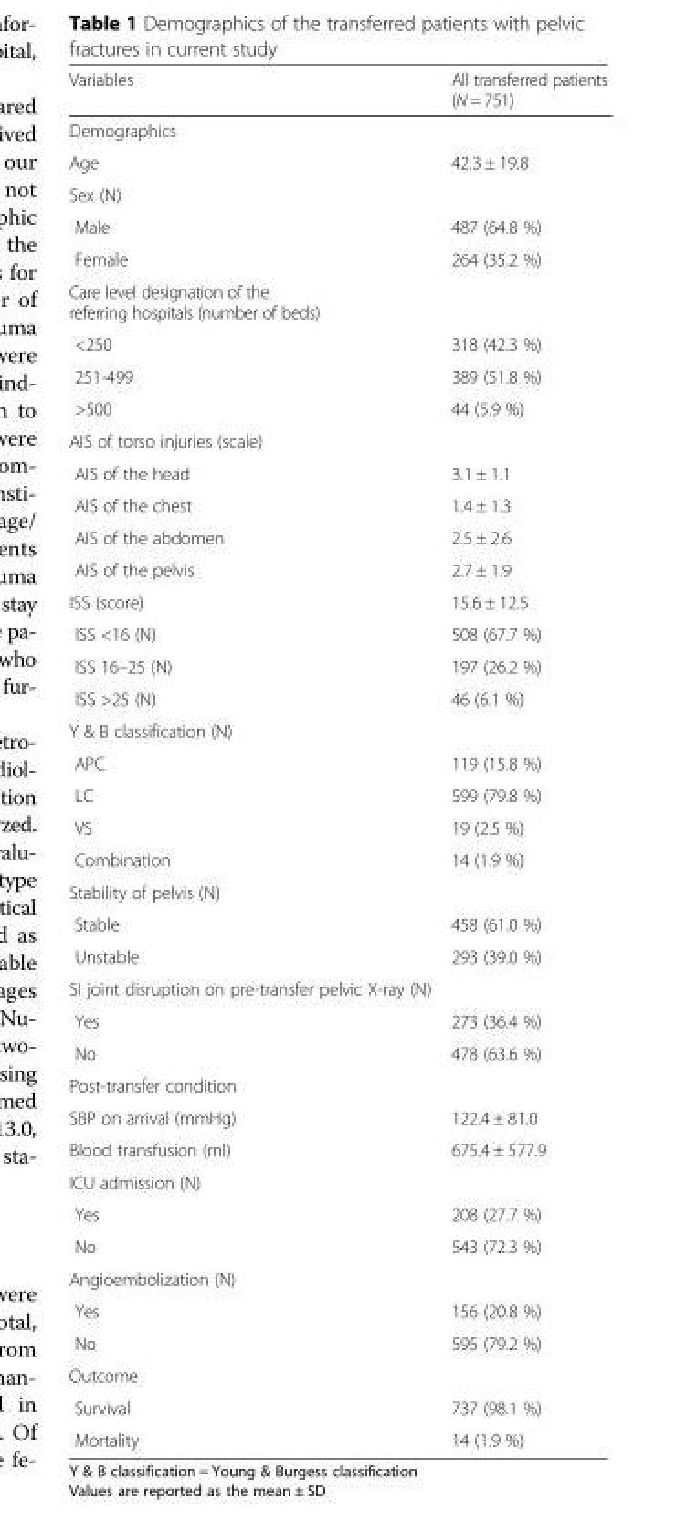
<table><thead><tr><td>Variables</td><td>All transferred patients (N = 751)</td></tr></thead><tbody><tr><td colspan="2">Demographics</td></tr><tr><td>Age</td><td>42.3 ± 19.8</td></tr><tr><td colspan="2">Sex (N)</td></tr><tr><td>Male</td><td>487 (64.8 %)</td></tr><tr><td>Female</td><td>264 (35.2 %)</td></tr><tr><td colspan="2">Care level designation of the referring hospitals (number of beds)</td></tr><tr><td>&lt;250</td><td>318 (42.3 %)</td></tr><tr><td>251-499</td><td>389 (51.8 %)</td></tr><tr><td>&gt;500</td><td>44 (5.9 %)</td></tr><tr><td colspan="2">AIS of torso injuries (scale)</td></tr><tr><td>AIS of the head</td><td>3.1 ± 1.1</td></tr><tr><td>AIS of the chest</td><td>1.4 ± 1.3</td></tr><tr><td>AIS of the abdomen</td><td>2.5 ± 2.6</td></tr><tr><td>AIS of the pelvis</td><td>2.7 ± 1.9</td></tr><tr><td>ISS (score)</td><td>15.6 ± 12.5</td></tr><tr><td>ISS &lt;16 (N)</td><td>508 (67.7 %)</td></tr><tr><td>ISS 16–25 (N)</td><td>197 (26.2 %)</td></tr><tr><td>ISS &gt;25 (N)</td><td>46 (6.1 %)</td></tr><tr><td colspan="2">Y &amp; B classification (N)</td></tr><tr><td>APC</td><td>119 (15.8 %)</td></tr><tr><td>LC</td><td>599 (79.8 %)</td></tr><tr><td>VS</td><td>19 (2.5 %)</td></tr><tr><td>Combination</td><td>14 (1.9 %)</td></tr><tr><td colspan="2">Stability of pelvis (N)</td></tr><tr><td>Stable</td><td>458 (61.0 %)</td></tr><tr><td>Unstable</td><td>293 (39.0 %)</td></tr><tr><td colspan="2">SI joint disruption on pre-transfer pelvic X-ray (N)</td></tr><tr><td>Yes</td><td>273 (36.4 %)</td></tr><tr><td>No</td><td>478 (63.6 %)</td></tr><tr><td colspan="2">Post-transfer condition</td></tr><tr><td>SBP on arrival (mmHg)</td><td>122.4 ± 81.0</td></tr><tr><td>Blood transfusion (ml)</td><td>675.4 ± 577.9</td></tr><tr><td colspan="2">ICU admission (N)</td></tr><tr><td>Yes</td><td>208 (27.7 %)</td></tr><tr><td>No</td><td>543 (72.3 %)</td></tr><tr><td colspan="2">Angioembolization (N)</td></tr><tr><td>Yes</td><td>156 (20.8 %)</td></tr><tr><td>No</td><td>595 (79.2 %)</td></tr><tr><td colspan="2">Outcome</td></tr><tr><td>Survival</td><td>737 (98.1 %)</td></tr><tr><td>Mortality</td><td>14 (1.9 %)</td></tr></tbody></table>